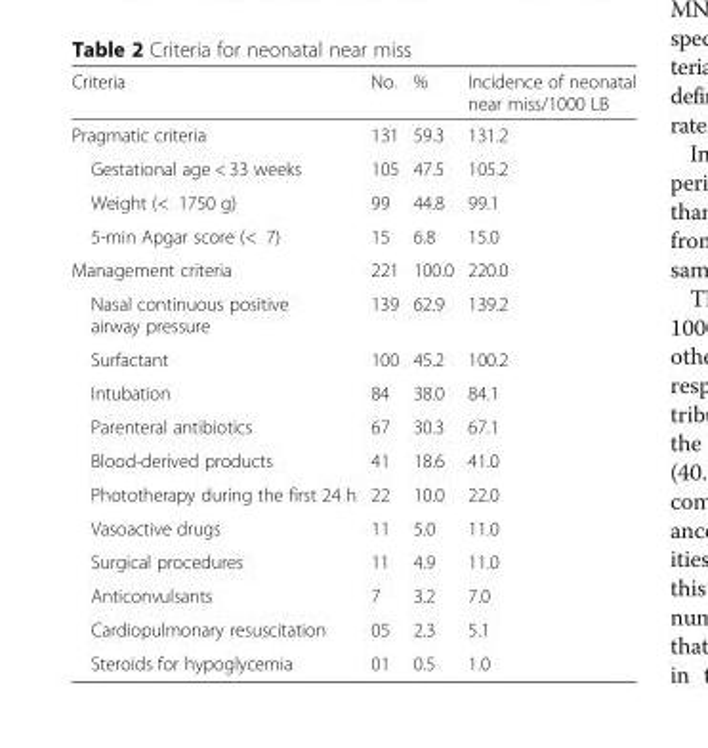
<table><thead><tr><td>Criteria</td><td>No.</td><td>%</td><td>Incidence of neonatal near miss/1000 LB</td></tr></thead><tbody><tr><td>Pragmatic criteria</td><td>131</td><td>59.3</td><td>131.2</td></tr><tr><td>Gestational age &lt; 33 weeks</td><td>105</td><td>47.5</td><td>105.2</td></tr><tr><td>Weight (&lt; 1750 g)</td><td>99</td><td>44.8</td><td>99.1</td></tr><tr><td>5-min Apgar score (&lt; 7)</td><td>15</td><td>6.8</td><td>15.0</td></tr><tr><td>Management criteria</td><td>221</td><td>100.0</td><td>220.0</td></tr><tr><td>Nasal continuous positive airway pressure</td><td>139</td><td>62.9</td><td>139.2</td></tr><tr><td>Surfactant</td><td>100</td><td>45.2</td><td>100.2</td></tr><tr><td>Intubation</td><td>84</td><td>38.0</td><td>84.1</td></tr><tr><td>Parenteral antibiotics</td><td>67</td><td>30.3</td><td>67.1</td></tr><tr><td>Blood-derived products</td><td>41</td><td>18.6</td><td>41.0</td></tr><tr><td>Phototherapy during the first 24 h</td><td>22</td><td>10.0</td><td>22.0</td></tr><tr><td>Vasoactive drugs</td><td>11</td><td>5.0</td><td>11.0</td></tr><tr><td>Surgical procedures</td><td>11</td><td>4.9</td><td>11.0</td></tr><tr><td>Anticonvulsants</td><td>7</td><td>3.2</td><td>7.0</td></tr><tr><td>Cardiopulmonary resuscitation</td><td>05</td><td>2.3</td><td>5.1</td></tr><tr><td>Steroids for hypoglycemia</td><td>01</td><td>0.5</td><td>1.0</td></tr></tbody></table>